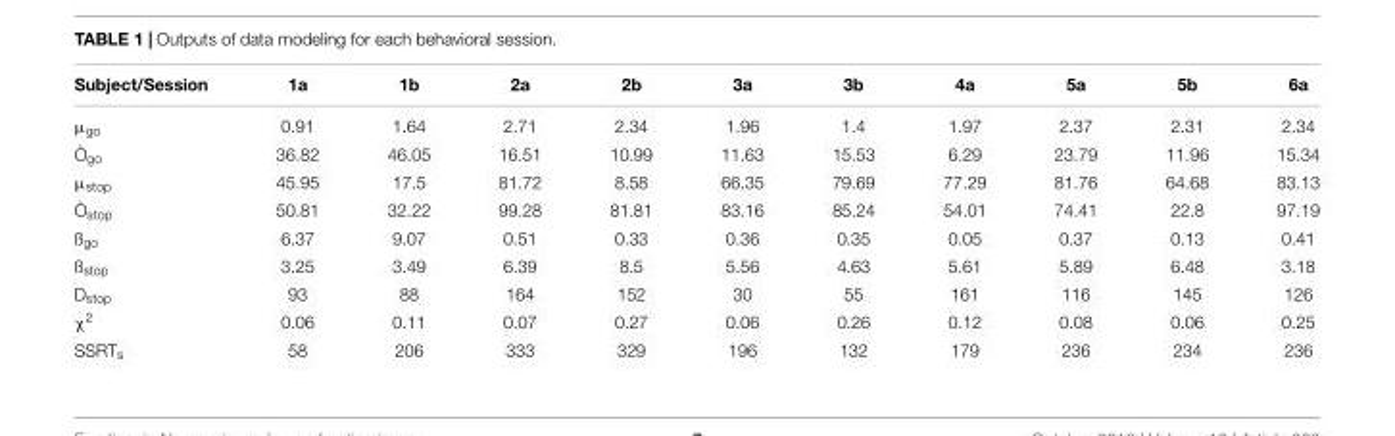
<table><thead><tr><td>Subject/Session</td><td>1a</td><td>1b</td><td>2a</td><td>2b</td><td>3a</td><td>3b</td><td>4a</td><td>5a</td><td>5b</td><td>6a</td></tr></thead><tbody><tr><td>µ<sub>go</sub></td><td>0.91</td><td>1.64</td><td>2.71</td><td>2.34</td><td>1.96</td><td>1.4</td><td>1.97</td><td>2.37</td><td>2.31</td><td>2.34</td></tr><tr><td>Ò<sub>go</sub></td><td>36.82</td><td>46.05</td><td>16.51</td><td>10.99</td><td>11.63</td><td>15.53</td><td>6.29</td><td>23.79</td><td>11.96</td><td>15.34</td></tr><tr><td>µ<sub>stop</sub></td><td>45.95</td><td>17.5</td><td>81.72</td><td>8.58</td><td>66.35</td><td>79.69</td><td>77.29</td><td>81.76</td><td>64.68</td><td>83.13</td></tr><tr><td>Ò<sub>stop</sub></td><td>50.81</td><td>32.22</td><td>99.28</td><td>81.81</td><td>83.16</td><td>85.24</td><td>54.01</td><td>74.41</td><td>22.8</td><td>97.19</td></tr><tr><td>ß<sub>go</sub></td><td>6.37</td><td>9.07</td><td>0.51</td><td>0.33</td><td>0.36</td><td>0.35</td><td>0.05</td><td>0.37</td><td>0.13</td><td>0.41</td></tr><tr><td>ß<sub>stop</sub></td><td>3.25</td><td>3.49</td><td>6.39</td><td>8.5</td><td>5.56</td><td>4.63</td><td>5.61</td><td>5.89</td><td>6.48</td><td>3.18</td></tr><tr><td>D<sub>stop</sub></td><td>93</td><td>88</td><td>164</td><td>152</td><td>30</td><td>55</td><td>161</td><td>116</td><td>145</td><td>126</td></tr><tr><td>χ<sup>2</sup></td><td>0.06</td><td>0.11</td><td>0.07</td><td>0.27</td><td>0.06</td><td>0.26</td><td>0.12</td><td>0.08</td><td>0.06</td><td>0.25</td></tr><tr><td>SSRT<sub>s</sub></td><td>58</td><td>206</td><td>333</td><td>329</td><td>196</td><td>132</td><td>179</td><td>236</td><td>234</td><td>236</td></tr></tbody></table>